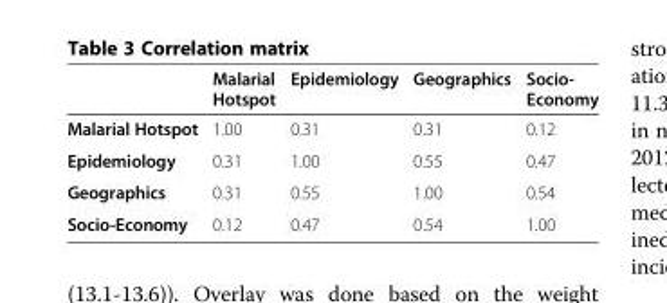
<table><thead><tr><td></td><td>Malarial Hotspot</td><td>Epidemiology</td><td>Geographics</td><td>Socio- Economy</td></tr></thead><tbody><tr><td>Malarial Hotspot</td><td>1.00</td><td>0.31</td><td>0.31</td><td>0.12</td></tr><tr><td>Epidemiology</td><td>0.31</td><td>1.00</td><td>0.55</td><td>0.47</td></tr><tr><td>Geographics</td><td>0.31</td><td>0.55</td><td>1.00</td><td>0.54</td></tr><tr><td>Socio-Economy</td><td>0.12</td><td>0.47</td><td>0.54</td><td>1.00</td></tr></tbody></table>